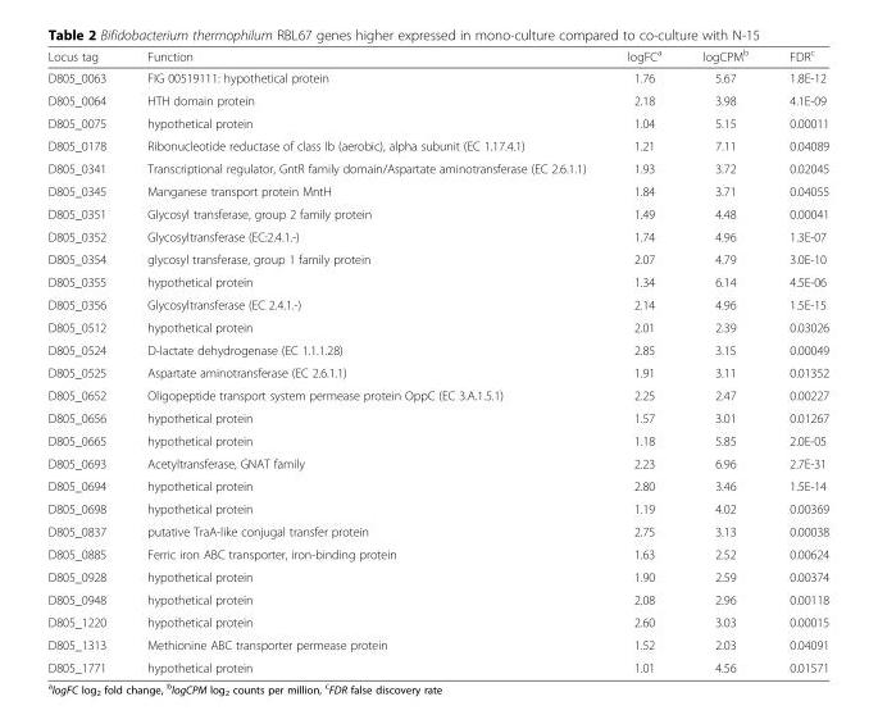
<table><thead><tr><td>Locus tag</td><td>Function</td><td>logFC<sup>a</sup></td><td>logCPM<sup>b</sup></td><td>FDR<sup>c</sup></td></tr></thead><tbody><tr><td>D805_0063</td><td>FIG 00519111: hypothetical protein</td><td>1.76</td><td>5.67</td><td>1.8E-12</td></tr><tr><td>D805_0064</td><td>HTH domain protein</td><td>2.18</td><td>3.98</td><td>4.1E-09</td></tr><tr><td>D805_0075</td><td>hypothetical protein</td><td>1.04</td><td>5.15</td><td>0.00011</td></tr><tr><td>D805_0178</td><td>Ribonucleotide reductase of class Ib (aerobic), alpha subunit (EC 1.17.4.1)</td><td>1.21</td><td>7.11</td><td>0.04089</td></tr><tr><td>D805_0341</td><td>Transcriptional regulator, GntR family domain/Aspartate aminotransferase (EC 2.6.1.1)</td><td>1.93</td><td>3.72</td><td>0.02045</td></tr><tr><td>D805_0345</td><td>Manganese transport protein MntH</td><td>1.84</td><td>3.71</td><td>0.04055</td></tr><tr><td>D805_0351</td><td>Glycosyl transferase, group 2 family protein</td><td>1.49</td><td>4.48</td><td>0.00041</td></tr><tr><td>D805_0352</td><td>Glycosyltransferase (EC:2.4.1.-)</td><td>1.74</td><td>4.96</td><td>1.3E-07</td></tr><tr><td>D805_0354</td><td>glycosyl transferase, group 1 family protein</td><td>2.07</td><td>4.79</td><td>3.0E-10</td></tr><tr><td>D805_0355</td><td>hypothetical protein</td><td>1.34</td><td>6.14</td><td>4.5E-06</td></tr><tr><td>D805_0356</td><td>Glycosyltransferase (EC 2.4.1.-)</td><td>2.14</td><td>4.96</td><td>1.5E-15</td></tr><tr><td>D805_0512</td><td>hypothetical protein</td><td>2.01</td><td>2.39</td><td>0.03026</td></tr><tr><td>D805_0524</td><td>D-lactate dehydrogenase (EC 1.1.1.28)</td><td>2.85</td><td>3.15</td><td>0.00049</td></tr><tr><td>D805_0525</td><td>Aspartate aminotransferase (EC 2.6.1.1)</td><td>1.91</td><td>3.11</td><td>0.01352</td></tr><tr><td>D805_0652</td><td>Oligopeptide transport system permease protein OppC (EC 3.A.1.5.1)</td><td>2.25</td><td>2.47</td><td>0.00227</td></tr><tr><td>D805_0656</td><td>hypothetical protein</td><td>1.57</td><td>3.01</td><td>0.01267</td></tr><tr><td>D805_0665</td><td>hypothetical protein</td><td>1.18</td><td>5.85</td><td>2.0E-05</td></tr><tr><td>D805_0693</td><td>Acetyltransferase, GNAT family</td><td>2.23</td><td>6.96</td><td>2.7E-31</td></tr><tr><td>D805_0694</td><td>hypothetical protein</td><td>2.80</td><td>3.46</td><td>1.5E-14</td></tr><tr><td>D805_0698</td><td>hypothetical protein</td><td>1.19</td><td>4.02</td><td>0.00369</td></tr><tr><td>D805_0837</td><td>putative TraA-like conjugal transfer protein</td><td>2.75</td><td>3.13</td><td>0.00038</td></tr><tr><td>D805_0885</td><td>Ferric iron ABC transporter, iron-binding protein</td><td>1.63</td><td>2.52</td><td>0.00624</td></tr><tr><td>D805_0928</td><td>hypothetical protein</td><td>1.90</td><td>2.59</td><td>0.00374</td></tr><tr><td>D805_0948</td><td>hypothetical protein</td><td>2.08</td><td>2.96</td><td>0.00118</td></tr><tr><td>D805_1220</td><td>hypothetical protein</td><td>2.60</td><td>3.03</td><td>0.00015</td></tr><tr><td>D805_1313</td><td>Methionine ABC transporter permease protein</td><td>1.52</td><td>2.03</td><td>0.04091</td></tr><tr><td>D805_1771</td><td>hypothetical protein</td><td>1.01</td><td>4.56</td><td>0.01571</td></tr></tbody></table>